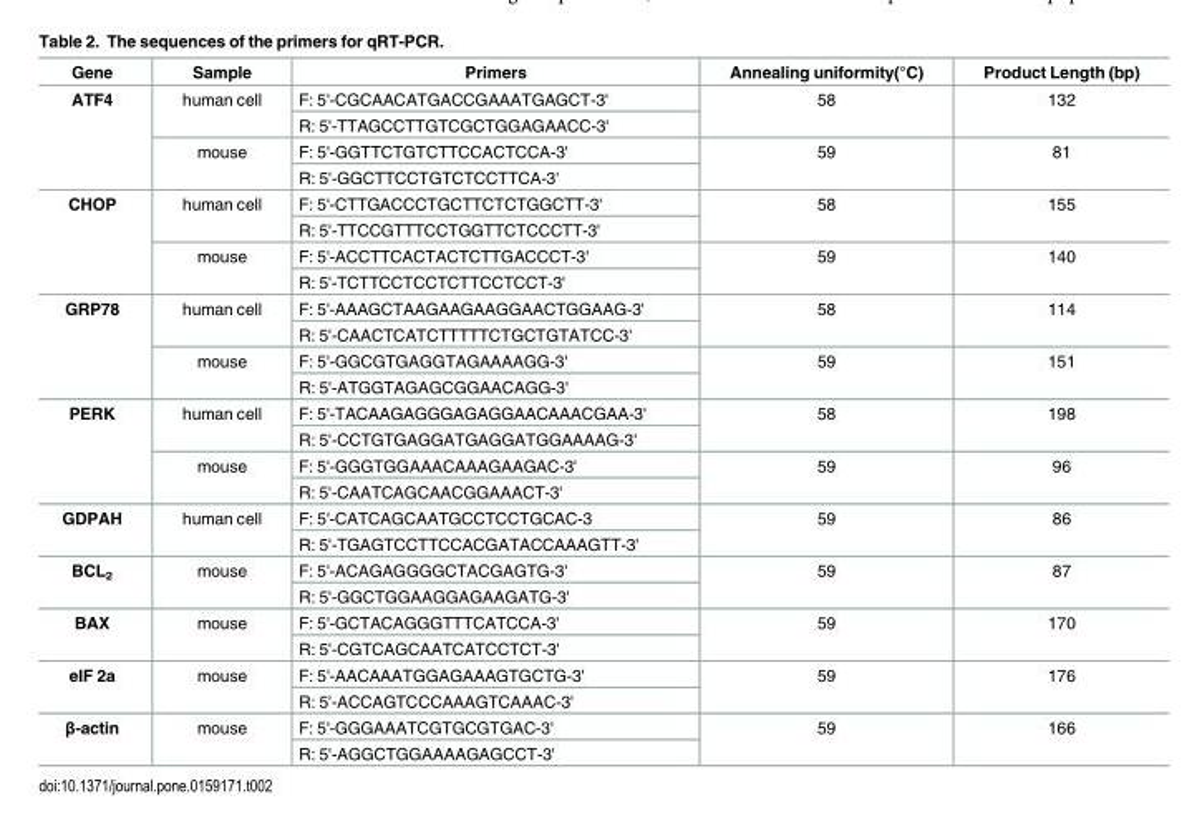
<table><thead><tr><td>Gene</td><td>Sample</td><td>Primers</td><td>Annealing uniformity(°C)</td><td>Product Length (bp)</td></tr></thead><tbody><tr><td rowspan="4">ATF4</td><td rowspan="2">human cell</td><td>F: 5&#x27;-CGCAACATGACCGAAATGAGCT-3&#x27;</td><td rowspan="2">58</td><td rowspan="2">132</td></tr><tr><td>R: 5&#x27;-TTAGCCTTGTCGCTGGAGAACC-3&#x27;</td></tr><tr><td rowspan="2">mouse</td><td>F: 5&#x27;-GGTTCTGTCTTCCACTCCA-3&#x27;</td><td rowspan="2">59</td><td rowspan="2">81</td></tr><tr><td>R: 5&#x27;-GGCTTCCTGTCTCCTTCA-3&#x27;</td></tr><tr><td rowspan="4">CHOP</td><td rowspan="2">human cell</td><td>F: 5&#x27;-CTTGACCCTGCTTCTCTGGCTT-3&#x27;</td><td rowspan="2">58</td><td rowspan="2">155</td></tr><tr><td>R: 5&#x27;-TTCCGTTTCCTGGTTCTCCCTT-3&#x27;</td></tr><tr><td rowspan="2">mouse</td><td>F: 5&#x27;-ACCTTCACTACTCTTGACCCT-3&#x27;</td><td rowspan="2">59</td><td rowspan="2">140</td></tr><tr><td>R: 5&#x27;-TCTTCCTCCTCTTCCTCCT-3&#x27;</td></tr><tr><td rowspan="4">GRP78</td><td rowspan="2">human cell</td><td>F: 5&#x27;-AAAGCTAAGAAGAAGGAACTGGAAG-3&#x27;</td><td rowspan="2">58</td><td rowspan="2">114</td></tr><tr><td>R: 5&#x27;-CAACTCATCTTTTTCTGCTGTATCC-3&#x27;</td></tr><tr><td rowspan="2">mouse</td><td>F: 5&#x27;-GGCGTGAGGTAGAAAAGG-3&#x27;</td><td rowspan="2">59</td><td rowspan="2">151</td></tr><tr><td>R: 5&#x27;-ATGGTAGAGCGGAACAGG-3&#x27;</td></tr><tr><td rowspan="4">PERK</td><td rowspan="2">human cell</td><td>F: 5&#x27;-TACAAGAGGGAGAGGAACAAACGAA-3&#x27;</td><td rowspan="2">58</td><td rowspan="2">198</td></tr><tr><td>R: 5&#x27;-CCTGTGAGGATGAGGATGGAAAAG-3&#x27;</td></tr><tr><td rowspan="2">mouse</td><td>F: 5&#x27;-GGGTGGAAACAAAGAAGAC-3&#x27;</td><td rowspan="2">59</td><td rowspan="2">96</td></tr><tr><td>R: 5&#x27;-CAATCAGCAACGGAAACT-3&#x27;</td></tr><tr><td rowspan="2">GDPAH</td><td rowspan="2">human cell</td><td>F: 5&#x27;-CATCAGCAATGCCTCCTGCAC-3</td><td rowspan="2">59</td><td rowspan="2">86</td></tr><tr><td>R: 5&#x27;-TGAGTCCTTCCACGATACCAAAGTT-3&#x27;</td></tr><tr><td rowspan="2">BCL<sub>2</sub></td><td rowspan="2">mouse</td><td>F: 5&#x27;-ACAGAGGGGCTACGAGTG-3&#x27;</td><td rowspan="2">59</td><td rowspan="2">87</td></tr><tr><td>R: 5&#x27;-GGCTGGAAGGAGAAGATG-3&#x27;</td></tr><tr><td rowspan="2">BAX</td><td rowspan="2">mouse</td><td>F: 5&#x27;-GCTACAGGGTTTCATCCA-3&#x27;</td><td rowspan="2">59</td><td rowspan="2">170</td></tr><tr><td>R: 5&#x27;-CGTCAGCAATCATCCTCT-3&#x27;</td></tr><tr><td rowspan="2">eIF 2a</td><td rowspan="2">mouse</td><td>F: 5&#x27;-AACAAATGGAGAAAGTGCTG-3&#x27;</td><td rowspan="2">59</td><td rowspan="2">176</td></tr><tr><td>R: 5&#x27;-ACCAGTCCCAAAGTCAAAC-3&#x27;</td></tr><tr><td rowspan="2">β-actin</td><td rowspan="2">mouse</td><td>F: 5&#x27;-GGGAAATCGTGCGTGAC-3&#x27;</td><td rowspan="2">59</td><td rowspan="2">166</td></tr><tr><td>R: 5&#x27;-AGGCTGGAAAAGAGCCT-3&#x27;</td></tr></tbody></table>